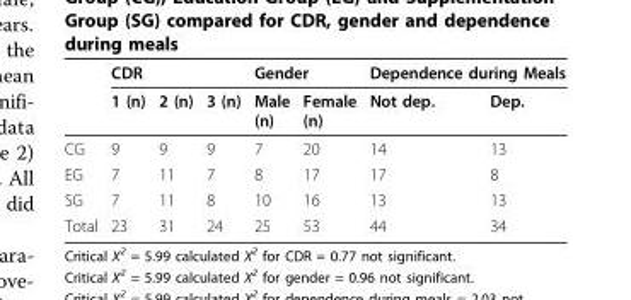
<table><thead><tr><td rowspan="2"></td><td colspan="3">CDR</td><td colspan="2">Gender</td><td colspan="2">Dependence during Meals</td></tr><tr><td>1 (n)</td><td>2 (n)</td><td>3 (n)</td><td>Male (n)</td><td>Female (n)</td><td>Not dep.</td><td>Dep.</td></tr></thead><tbody><tr><td>CG</td><td>9</td><td>9</td><td>9</td><td>7</td><td>20</td><td>14</td><td>13</td></tr><tr><td>EG</td><td>7</td><td>11</td><td>7</td><td>8</td><td>17</td><td>17</td><td>8</td></tr><tr><td>SG</td><td>7</td><td>11</td><td>8</td><td>10</td><td>16</td><td>13</td><td>13</td></tr><tr><td>Total</td><td>23</td><td>31</td><td>24</td><td>25</td><td>53</td><td>44</td><td>34</td></tr></tbody></table>